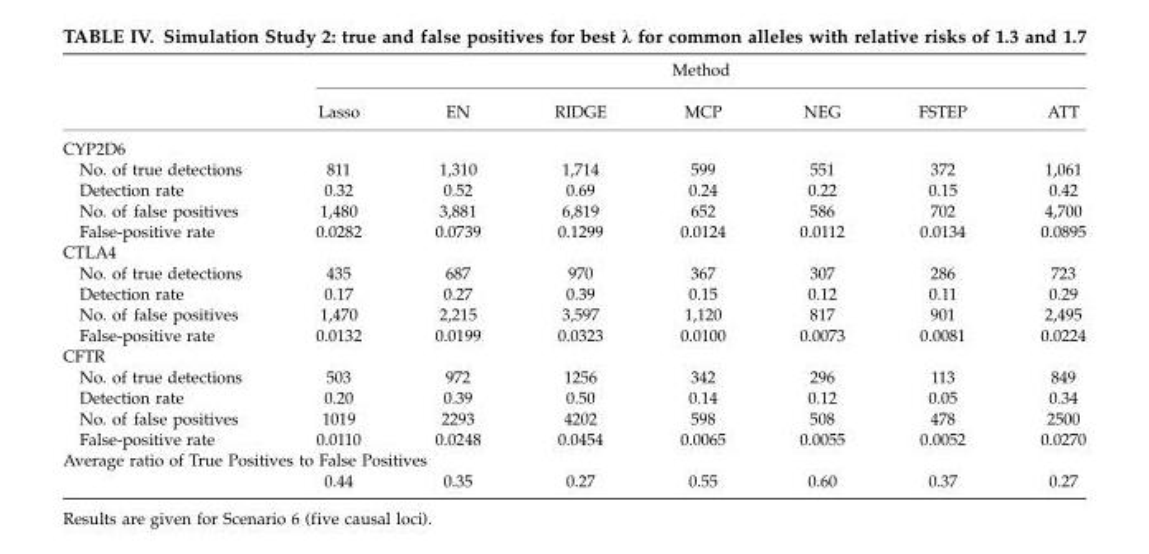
<table><thead><tr><td rowspan="2"></td><td colspan="7">Method</td></tr><tr><td>Lasso</td><td>EN</td><td>RIDGE</td><td>MCP</td><td>NEG</td><td>FSTEP</td><td>ATT</td></tr></thead><tbody><tr><td colspan="8">CYP2D6</td></tr><tr><td>No. of true detections</td><td>811</td><td>1,310</td><td>1,714</td><td>599</td><td>551</td><td>372</td><td>1,061</td></tr><tr><td>Detection rate</td><td>0.32</td><td>0.52</td><td>0.69</td><td>0.24</td><td>0.22</td><td>0.15</td><td>0.42</td></tr><tr><td>No. of false positives</td><td>1,480</td><td>3,881</td><td>6,819</td><td>652</td><td>586</td><td>702</td><td>4,700</td></tr><tr><td>False-positive rate</td><td>0.0282</td><td>0.0739</td><td>0.1299</td><td>0.0124</td><td>0.0112</td><td>0.0134</td><td>0.0895</td></tr><tr><td colspan="8">CTLA4</td></tr><tr><td>No. of true detections</td><td>435</td><td>687</td><td>970</td><td>367</td><td>307</td><td>286</td><td>723</td></tr><tr><td>Detection rate</td><td>0.17</td><td>0.27</td><td>0.39</td><td>0.15</td><td>0.12</td><td>0.11</td><td>0.29</td></tr><tr><td>No. of false positives</td><td>1,470</td><td>2,215</td><td>3,597</td><td>1,120</td><td>817</td><td>901</td><td>2,495</td></tr><tr><td>False-positive rate</td><td>0.0132</td><td>0.0199</td><td>0.0323</td><td>0.0100</td><td>0.0073</td><td>0.0081</td><td>0.0224</td></tr><tr><td colspan="8">CFTR</td></tr><tr><td>No. of true detections</td><td>503</td><td>972</td><td>1256</td><td>342</td><td>296</td><td>113</td><td>849</td></tr><tr><td>Detection rate</td><td>0.20</td><td>0.39</td><td>0.50</td><td>0.14</td><td>0.12</td><td>0.05</td><td>0.34</td></tr><tr><td>No. of false positives</td><td>1019</td><td>2293</td><td>4202</td><td>598</td><td>508</td><td>478</td><td>2500</td></tr><tr><td>False-positive rate</td><td>0.0110</td><td>0.0248</td><td>0.0454</td><td>0.0065</td><td>0.0055</td><td>0.0052</td><td>0.0270</td></tr><tr><td colspan="8">Average ratio of True Positives to False Positives</td></tr><tr><td></td><td>0.44</td><td>0.35</td><td>0.27</td><td>0.55</td><td>0.60</td><td>0.37</td><td>0.27</td></tr></tbody></table>